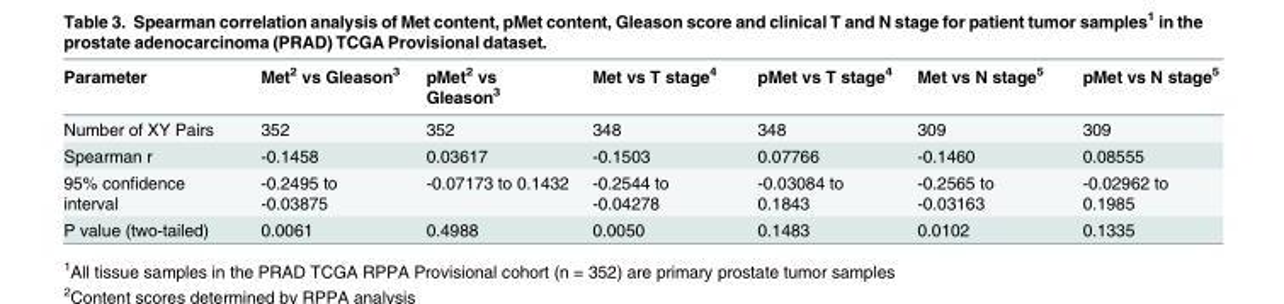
<table><thead><tr><td>Parameter</td><td>Met<sup>2</sup> vs Gleason<sup>3</sup></td><td>pMet<sup>2</sup> vs Gleason<sup>3</sup></td><td>Met vs T stage<sup>4</sup></td><td>pMet vs T stage<sup>4</sup></td><td>Met vs N stage<sup>5</sup></td><td>pMet vs N stage<sup>5</sup></td></tr></thead><tbody><tr><td>Number of XY Pairs</td><td>352</td><td>352</td><td>348</td><td>348</td><td>309</td><td>309</td></tr><tr><td>Spearman r</td><td>-0.1458</td><td>0.03617</td><td>-0.1503</td><td>0.07766</td><td>-0.1460</td><td>0.08555</td></tr><tr><td>95% confidence interval</td><td>-0.2495 to -0.03875</td><td>-0.07173 to 0.1432</td><td>-0.2544 to -0.04278</td><td>-0.03084 to 0.1843</td><td>-0.2565 to -0.03163</td><td>-0.02962 to 0.1985</td></tr><tr><td>P value (two-tailed)</td><td>0.0061</td><td>0.4988</td><td>0.0050</td><td>0.1483</td><td>0.0102</td><td>0.1335</td></tr></tbody></table>